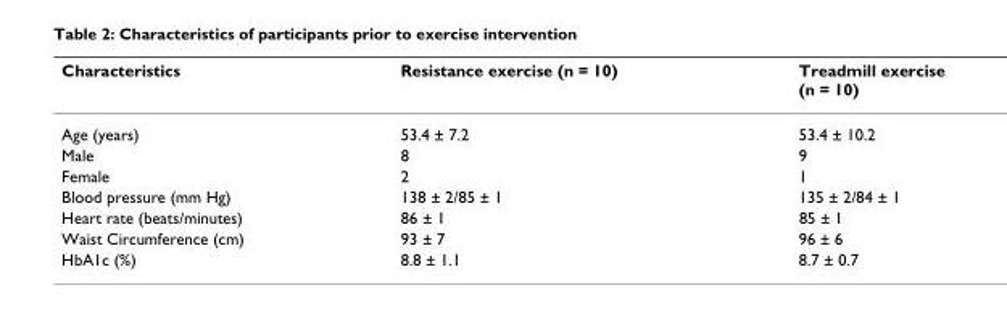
<table><thead><tr><td>Characteristics</td><td>Resistance exercise (n = 10)</td><td>Treadmill exercise (n = 10)</td></tr></thead><tbody><tr><td>Age (years)</td><td>53.4 ± 7.2</td><td>53.4 ± 10.2</td></tr><tr><td>Male</td><td>8</td><td>9</td></tr><tr><td>Female</td><td>2</td><td>1</td></tr><tr><td>Blood pressure (mm Hg)</td><td>138 ± 2/85 ± 1</td><td>135 ± 2/84 ± 1</td></tr><tr><td>Heart rate (beats/minutes)</td><td>86 ± 1</td><td>85 ± 1</td></tr><tr><td>Waist Circumference (cm)</td><td>93 ± 7</td><td>96 ± 6</td></tr><tr><td>HbA1c (%)</td><td>8.8 ± 1.1</td><td>8.7 ± 0.7</td></tr></tbody></table>